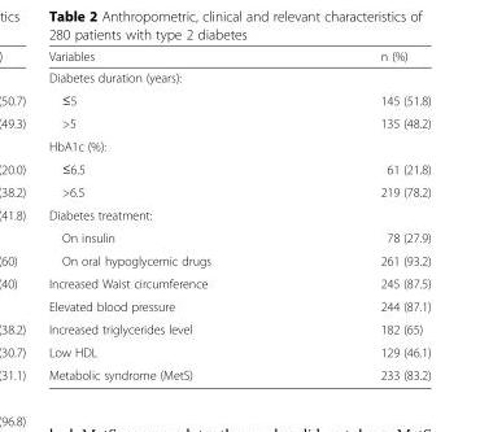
<table><thead><tr><td>Variables</td><td>n (%)</td></tr></thead><tbody><tr><td colspan="2">Diabetes duration (years):</td></tr><tr><td>≤5</td><td>145 (51.8)</td></tr><tr><td>&gt;5</td><td>135 (48.2)</td></tr><tr><td colspan="2">HbA1c (%):</td></tr><tr><td>≤6.5</td><td>61 (21.8)</td></tr><tr><td>&gt;6.5</td><td>219 (78.2)</td></tr><tr><td colspan="2">Diabetes treatment:</td></tr><tr><td>On insulin</td><td>78 (27.9)</td></tr><tr><td>On oral hypoglycemic drugs</td><td>261 (93.2)</td></tr><tr><td>Increased Waist circumference</td><td>245 (87.5)</td></tr><tr><td>Elevated blood pressure</td><td>244 (87.1)</td></tr><tr><td>Increased triglycerides level</td><td>182 (65)</td></tr><tr><td>Low HDL</td><td>129 (46.1)</td></tr><tr><td>Metabolic syndrome (MetS)</td><td>233 (83.2)</td></tr></tbody></table>